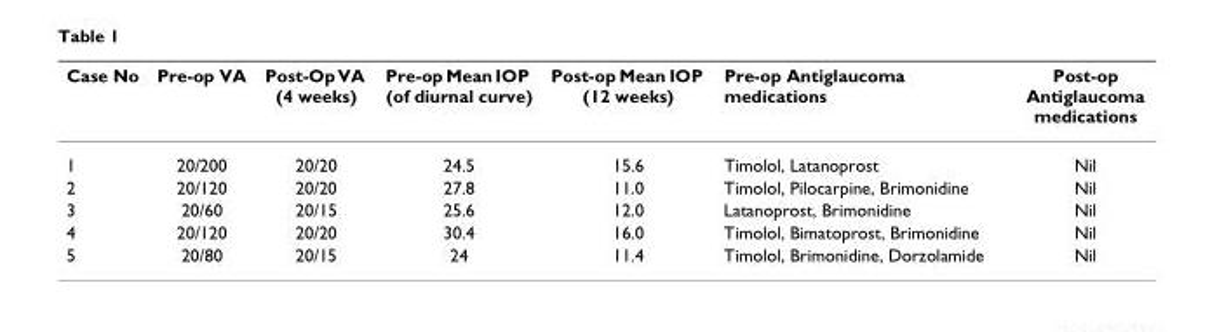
<table><thead><tr><td>Case No</td><td>Pre-op VA</td><td>Post-Op VA (4 weeks)</td><td>Pre-op Mean IOP (of diurnal curve)</td><td>Post-op Mean IOP (12 weeks)</td><td>Pre-op Antiglaucoma medications</td><td>Post-op Antiglaucoma medications</td></tr></thead><tbody><tr><td>1</td><td>20/200</td><td>20/20</td><td>24.5</td><td>15.6</td><td>Timolol, Latanoprost</td><td>Nil</td></tr><tr><td>2</td><td>20/120</td><td>20/20</td><td>27.8</td><td>11.0</td><td>Timolol, Pilocarpine, Brimonidine</td><td>Nil</td></tr><tr><td>3</td><td>20/60</td><td>20/15</td><td>25.6</td><td>12.0</td><td>Latanoprost, Brimonidine</td><td>Nil</td></tr><tr><td>4</td><td>20/120</td><td>20/20</td><td>30.4</td><td>16.0</td><td>Timolol, Bimatoprost, Brimonidine</td><td>Nil</td></tr><tr><td>5</td><td>20/80</td><td>20/15</td><td>24</td><td>11.4</td><td>Timolol, Brimonidine, Dorzolamide</td><td>Nil</td></tr></tbody></table>